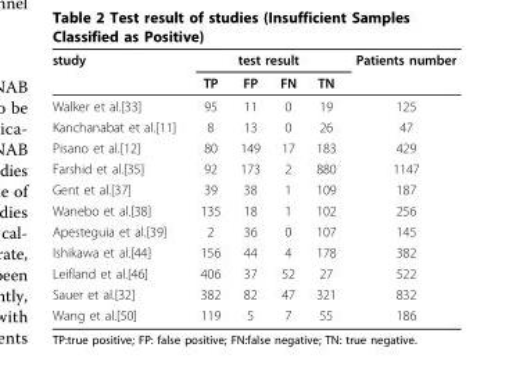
<table><thead><tr><td rowspan="2">study</td><td colspan="4">test result</td><td rowspan="2">Patients number</td></tr><tr><td>TP</td><td>FP</td><td>FN</td><td>TN</td></tr></thead><tbody><tr><td>Walker et al.[33]</td><td>95</td><td>11</td><td>0</td><td>19</td><td>125</td></tr><tr><td>Kanchanabat et al.[11]</td><td>8</td><td>13</td><td>0</td><td>26</td><td>47</td></tr><tr><td>Pisano et al.[12]</td><td>80</td><td>149</td><td>17</td><td>183</td><td>429</td></tr><tr><td>Farshid et al.[35]</td><td>92</td><td>173</td><td>2</td><td>880</td><td>1147</td></tr><tr><td>Gent et al.[37]</td><td>39</td><td>38</td><td>1</td><td>109</td><td>187</td></tr><tr><td>Wanebo et al.[38]</td><td>135</td><td>18</td><td>1</td><td>102</td><td>256</td></tr><tr><td>Apesteguia et al.[39]</td><td>2</td><td>36</td><td>0</td><td>107</td><td>145</td></tr><tr><td>Ishikawa et al.[44]</td><td>156</td><td>44</td><td>4</td><td>178</td><td>382</td></tr><tr><td>Leifland et al.[46]</td><td>406</td><td>37</td><td>52</td><td>27</td><td>522</td></tr><tr><td>Sauer et al.[32]</td><td>382</td><td>82</td><td>47</td><td>321</td><td>832</td></tr><tr><td>Wang et al.[50]</td><td>119</td><td>5</td><td>7</td><td>55</td><td>186</td></tr></tbody></table>